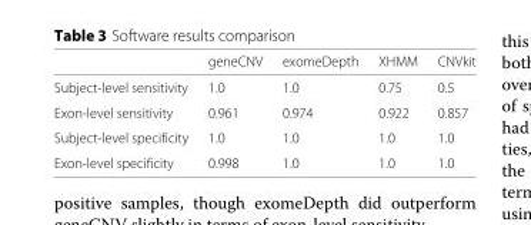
<table><thead><tr><td></td><td>geneCNV</td><td>exomeDepth</td><td>XHMM</td><td>CNVkit</td></tr></thead><tbody><tr><td>Subject-level sensitivity</td><td>1.0</td><td>1.0</td><td>0.75</td><td>0.5</td></tr><tr><td>Exon-level sensitivity</td><td>0.961</td><td>0.974</td><td>0.922</td><td>0.857</td></tr><tr><td>Subject-level specificity</td><td>1.0</td><td>1.0</td><td>1.0</td><td>1.0</td></tr><tr><td>Exon-level specificity</td><td>0.998</td><td>1.0</td><td>1.0</td><td>1.0</td></tr></tbody></table>